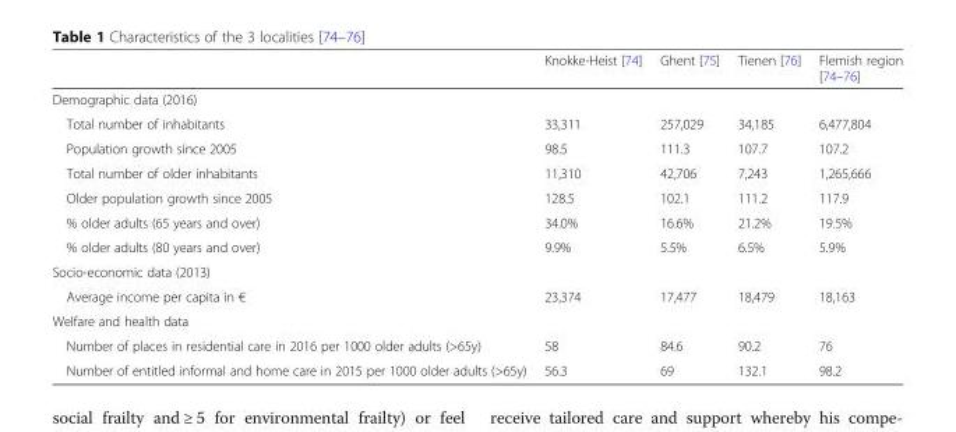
<table><thead><tr><td></td><td>Knokke-Heist [74]</td><td>Ghent [75]</td><td>Tienen [76]</td><td>Flemish region [74–76]</td></tr></thead><tbody><tr><td colspan="5">Demographic data (2016)</td></tr><tr><td>Total number of inhabitants</td><td>33,311</td><td>257,029</td><td>34,185</td><td>6,477,804</td></tr><tr><td>Population growth since 2005</td><td>98.5</td><td>111.3</td><td>107.7</td><td>107.2</td></tr><tr><td>Total number of older inhabitants</td><td>11,310</td><td>42,706</td><td>7,243</td><td>1,265,666</td></tr><tr><td>Older population growth since 2005</td><td>128.5</td><td>102.1</td><td>111.2</td><td>117.9</td></tr><tr><td>% older adults (65 years and over)</td><td>34.0%</td><td>16.6%</td><td>21.2%</td><td>19.5%</td></tr><tr><td>% older adults (80 years and over)</td><td>9.9%</td><td>5.5%</td><td>6.5%</td><td>5.9%</td></tr><tr><td colspan="5">Socio-economic data (2013)</td></tr><tr><td>Average income per capita in €</td><td>23,374</td><td>17,477</td><td>18,479</td><td>18,163</td></tr><tr><td colspan="5">Welfare and health data</td></tr><tr><td>Number of places in residential care in 2016 per 1000 older adults (&gt;65y)</td><td>58</td><td>84.6</td><td>90.2</td><td>76</td></tr><tr><td>Number of entitled informal and home care in 2015 per 1000 older adults (&gt;65y)</td><td>56.3</td><td>69</td><td>132.1</td><td>98.2</td></tr></tbody></table>